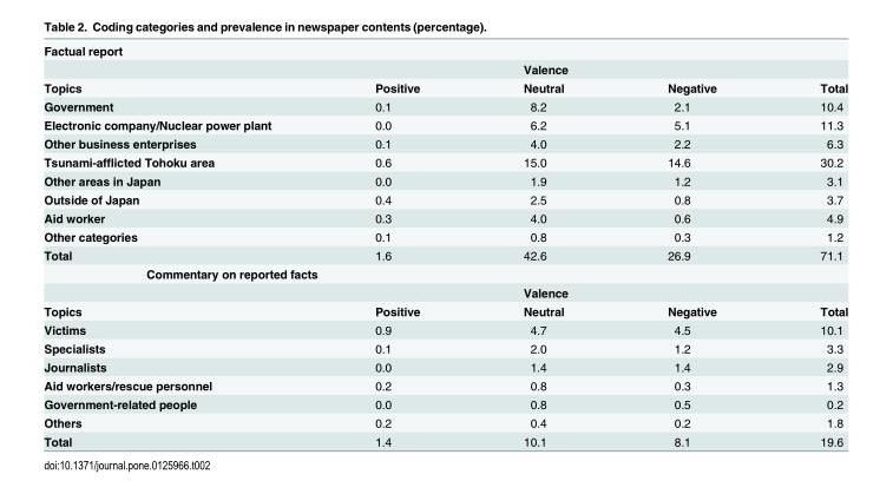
<table><tbody><tr><td colspan="5">Factual report</td></tr><tr><td></td><td colspan="3">Valence</td><td></td></tr><tr><td>Topics</td><td>Positive</td><td>Neutral</td><td>Negative</td><td>Total</td></tr><tr><td>Government</td><td>0.1</td><td>8.2</td><td>2.1</td><td>10.4</td></tr><tr><td>Electronic company/Nuclear power plant</td><td>0.0</td><td>6.2</td><td>5.1</td><td>11.3</td></tr><tr><td>Other business enterprises</td><td>0.1</td><td>4.0</td><td>2.2</td><td>6.3</td></tr><tr><td>Tsunami-afflicted Tohoku area</td><td>0.6</td><td>15.0</td><td>14.6</td><td>30.2</td></tr><tr><td>Other areas in Japan</td><td>0.0</td><td>1.9</td><td>1.2</td><td>3.1</td></tr><tr><td>Outside of Japan</td><td>0.4</td><td>2.5</td><td>0.8</td><td>3.7</td></tr><tr><td>Aid worker</td><td>0.3</td><td>4.0</td><td>0.6</td><td>4.9</td></tr><tr><td>Other categories</td><td>0.1</td><td>0.8</td><td>0.3</td><td>1.2</td></tr><tr><td>Total</td><td>1.6</td><td>42.6</td><td>26.9</td><td>71.1</td></tr><tr><td colspan="5">Commentary on reported facts</td></tr><tr><td></td><td colspan="3">Valence</td><td></td></tr><tr><td>Topics</td><td>Positive</td><td>Neutral</td><td>Negative</td><td>Total</td></tr><tr><td>Victims</td><td>0.9</td><td>4.7</td><td>4.5</td><td>10.1</td></tr><tr><td>Specialists</td><td>0.1</td><td>2.0</td><td>1.2</td><td>3.3</td></tr><tr><td>Journalists</td><td>0.0</td><td>1.4</td><td>1.4</td><td>2.9</td></tr><tr><td>Aid workers/rescue personnel</td><td>0.2</td><td>0.8</td><td>0.3</td><td>1.3</td></tr><tr><td>Government-related people</td><td>0.0</td><td>0.8</td><td>0.5</td><td>0.2</td></tr><tr><td>Others</td><td>0.2</td><td>0.4</td><td>0.2</td><td>1.8</td></tr><tr><td>Total</td><td>1.4</td><td>10.1</td><td>8.1</td><td>19.6</td></tr></tbody></table>